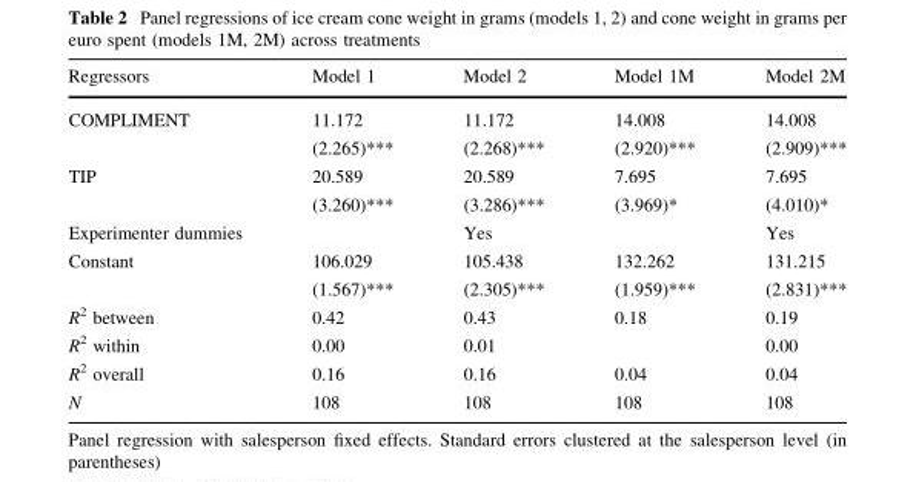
<table><thead><tr><td>Regressors</td><td>Model 1</td><td>Model 2</td><td>Model 1M</td><td>Model 2M</td></tr></thead><tbody><tr><td rowspan="2">COMPLIMENT</td><td>11.172</td><td>11.172</td><td>14.008</td><td>14.008</td></tr><tr><td>(2.265)***</td><td>(2.268)***</td><td>(2.920)***</td><td>(2.909)***</td></tr><tr><td rowspan="2">TIP</td><td>20.589</td><td>20.589</td><td>7.695</td><td>7.695</td></tr><tr><td>(3.260)***</td><td>(3.286)***</td><td>(3.969)*</td><td>(4.010)*</td></tr><tr><td>Experimenter dummies</td><td></td><td>Yes</td><td></td><td>Yes</td></tr><tr><td rowspan="2">Constant</td><td>106.029</td><td>105.438</td><td>132.262</td><td>131.215</td></tr><tr><td>(1.567)***</td><td>(2.305)***</td><td>(1.959)***</td><td>(2.831)***</td></tr><tr><td>R<sup>2</sup> between</td><td>0.42</td><td>0.43</td><td>0.18</td><td>0.19</td></tr><tr><td>R<sup>2</sup> within</td><td>0.00</td><td>0.01</td><td></td><td>0.00</td></tr><tr><td>R<sup>2</sup> overall</td><td>0.16</td><td>0.16</td><td>0.04</td><td>0.04</td></tr><tr><td>N</td><td>108</td><td>108</td><td>108</td><td>108</td></tr></tbody></table>